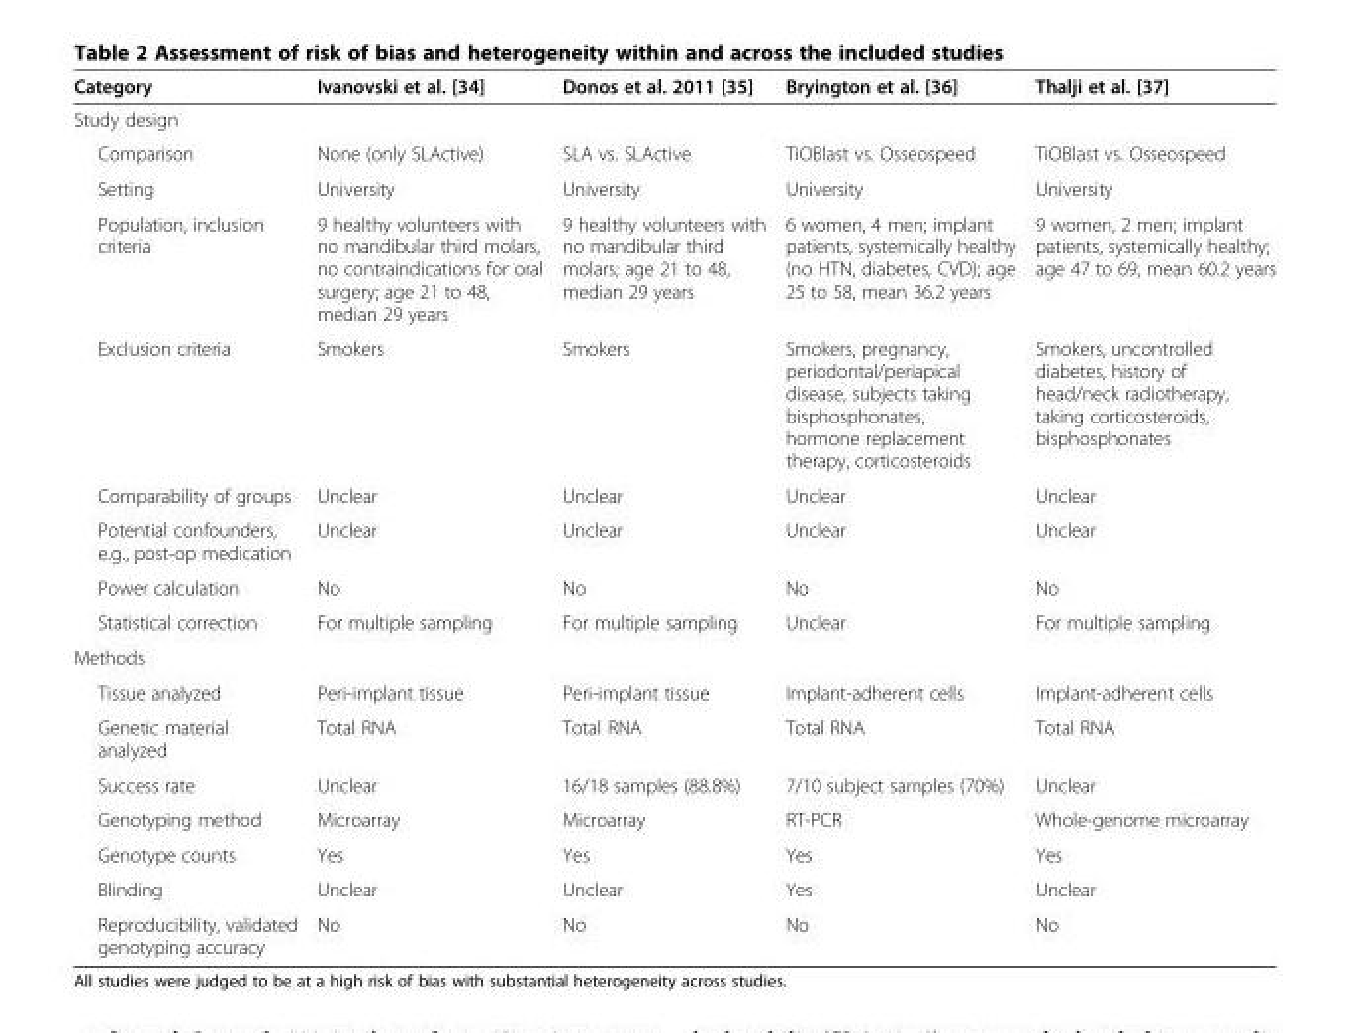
<table><thead><tr><td>Category</td><td>Ivanovski et al. [34]</td><td>Donos et al. 2011 [35]</td><td>Bryington et al. [36]</td><td>Thalji et al. [37]</td></tr></thead><tbody><tr><td colspan="5">Study design</td></tr><tr><td>Comparison</td><td>None (only SLActive)</td><td>SLA vs. SLActive</td><td>TiOBlast vs. Osseospeed</td><td>TiOBlast vs. Osseospeed</td></tr><tr><td>Setting</td><td>University</td><td>University</td><td>University</td><td>University</td></tr><tr><td>Population, inclusion criteria</td><td>9 healthy volunteers with no mandibular third molars, no contraindications for oral surgery; age 21 to 48, median 29 years</td><td>9 healthy volunteers with no mandibular third molars; age 21 to 48, median 29 years</td><td>6 women, 4 men; implant patients, systemically healthy (no HTN, diabetes, CVD); age 25 to 58, mean 36.2 years</td><td>9 women, 2 men; implant patients, systemically healthy; age 47 to 69, mean 60.2 years</td></tr><tr><td>Exclusion criteria</td><td>Smokers</td><td>Smokers</td><td>Smokers, pregnancy, periodontal/periapical disease, subjects taking bisphosphonates, hormone replacement therapy, corticosteroids</td><td>Smokers, uncontrolled diabetes, history of head/neck radiotherapy, taking corticosteroids, bisphosphonates</td></tr><tr><td>Comparability of groups</td><td>Unclear</td><td>Unclear</td><td>Unclear</td><td>Unclear</td></tr><tr><td>Potential confounders, e.g., post-op medication</td><td>Unclear</td><td>Unclear</td><td>Unclear</td><td>Unclear</td></tr><tr><td>Power calculation</td><td>No</td><td>No</td><td>No</td><td>No</td></tr><tr><td>Statistical correction</td><td>For multiple sampling</td><td>For multiple sampling</td><td>Unclear</td><td>For multiple sampling</td></tr><tr><td colspan="5">Methods</td></tr><tr><td>Tissue analyzed</td><td>Peri-implant tissue</td><td>Peri-implant tissue</td><td>Implant-adherent cells</td><td>Implant-adherent cells</td></tr><tr><td>Genetic material analyzed</td><td>Total RNA</td><td>Total RNA</td><td>Total RNA</td><td>Total RNA</td></tr><tr><td>Success rate</td><td>Unclear</td><td>16/18 samples (88.8%)</td><td>7/10 subject samples (70%)</td><td>Unclear</td></tr><tr><td>Genotyping method</td><td>Microarray</td><td>Microarray</td><td>RT-PCR</td><td>Whole-genome microarray</td></tr><tr><td>Genotype counts</td><td>Yes</td><td>Yes</td><td>Yes</td><td>Yes</td></tr><tr><td>Blinding</td><td>Unclear</td><td>Unclear</td><td>Yes</td><td>Unclear</td></tr><tr><td>Reproducibility, validated genotyping accuracy</td><td>No</td><td>No</td><td>No</td><td>No</td></tr></tbody></table>